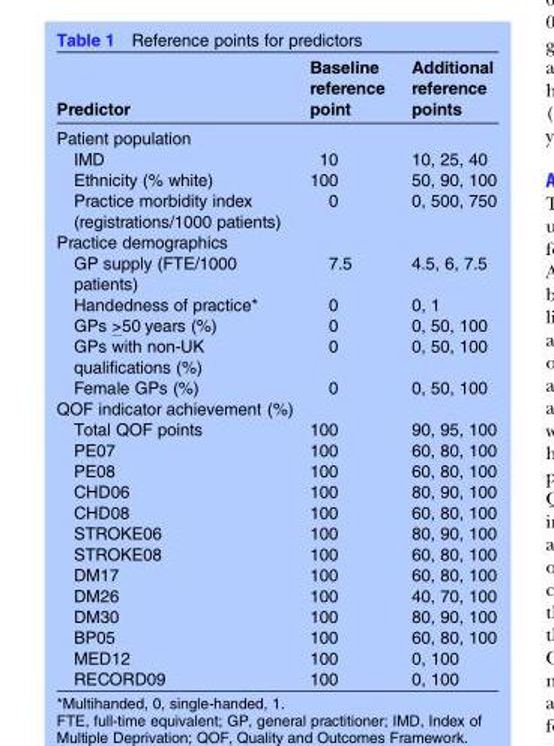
<table><thead><tr><td>Predictor</td><td>Baseline reference point</td><td>Additional reference points</td></tr></thead><tbody><tr><td colspan="3">Patient population</td></tr><tr><td>IMD</td><td>10</td><td>10, 25, 40</td></tr><tr><td>Ethnicity (% white)</td><td>100</td><td>50, 90, 100</td></tr><tr><td>Practice morbidity index (registrations/1000 patients)</td><td>0</td><td>0, 500, 750</td></tr><tr><td colspan="3">Practice demographics</td></tr><tr><td>GP supply (FTE/1000 patients)</td><td>7.5</td><td>4.5, 6, 7.5</td></tr><tr><td>Handedness of practice*</td><td>0</td><td>0, 1</td></tr><tr><td>GPs &gt;50 years (%)</td><td>0</td><td>0, 50, 100</td></tr><tr><td>GPs with non-UK qualifications (%)</td><td>0</td><td>0, 50, 100</td></tr><tr><td>Female GPs (%)</td><td>0</td><td>0, 50, 100</td></tr><tr><td colspan="3">QOF indicator achievement (%)</td></tr><tr><td>Total QOF points</td><td>100</td><td>90, 95, 100</td></tr><tr><td>PE07</td><td>100</td><td>60, 80, 100</td></tr><tr><td>PE08</td><td>100</td><td>60, 80, 100</td></tr><tr><td>CHD06</td><td>100</td><td>80, 90, 100</td></tr><tr><td>CHD08</td><td>100</td><td>60, 80, 100</td></tr><tr><td>STROKE06</td><td>100</td><td>80, 90, 100</td></tr><tr><td>STROKE08</td><td>100</td><td>60, 80, 100</td></tr><tr><td>DM17</td><td>100</td><td>60, 80, 100</td></tr><tr><td>DM26</td><td>100</td><td>40, 70, 100</td></tr><tr><td>DM30</td><td>100</td><td>80, 90, 100</td></tr><tr><td>BP05</td><td>100</td><td>60, 80, 100</td></tr><tr><td>MED12</td><td>100</td><td>0, 100</td></tr><tr><td>RECORD09</td><td>100</td><td>0, 100</td></tr></tbody></table>